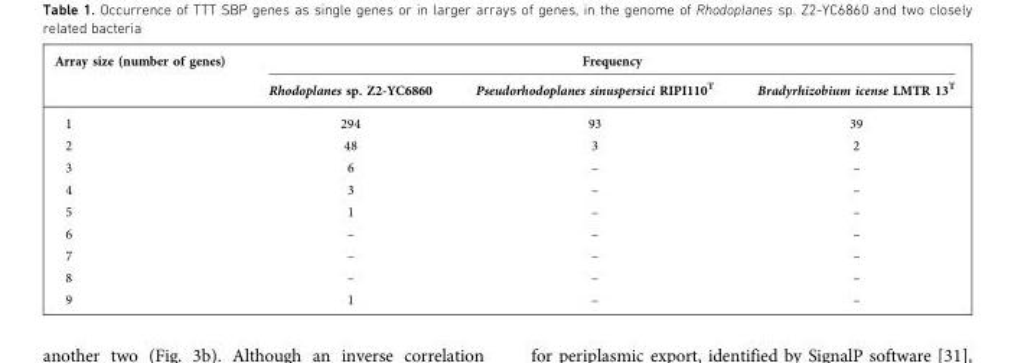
<table><thead><tr><td rowspan="2">Array size (number of genes)</td><td colspan="3">Frequency</td></tr><tr><td>Rhodoplanes sp. Z2-YC6860</td><td>Pseudorhodoplanes sinuspersici RIPI110<sup>T</sup></td><td>Bradyrhizobium icense LMTR 13<sup>T</sup></td></tr></thead><tbody><tr><td>1</td><td>294</td><td>93</td><td>39</td></tr><tr><td>2</td><td>48</td><td>3</td><td>2</td></tr><tr><td>3</td><td>6</td><td>–</td><td>–</td></tr><tr><td>4</td><td>3</td><td>–</td><td>–</td></tr><tr><td>5</td><td>1</td><td>–</td><td>–</td></tr><tr><td>6</td><td>–</td><td>–</td><td>–</td></tr><tr><td>7</td><td>–</td><td>–</td><td>–</td></tr><tr><td>8</td><td>–</td><td>–</td><td>–</td></tr><tr><td>9</td><td>1</td><td>–</td><td>–</td></tr></tbody></table>